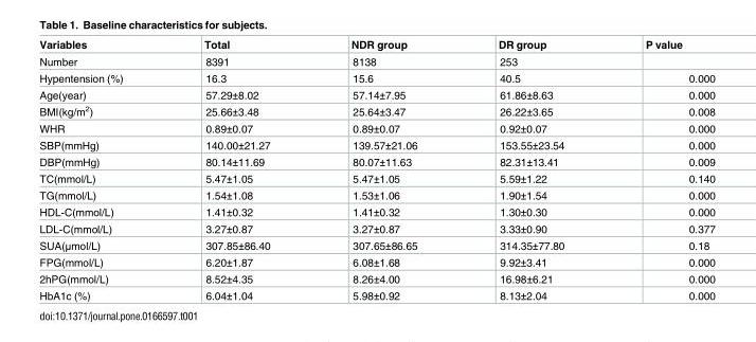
<table><thead><tr><td>Variables</td><td>Total</td><td>NDR group</td><td>DR group</td><td>P value</td></tr></thead><tbody><tr><td>Number</td><td>8391</td><td>8138</td><td>253</td><td></td></tr><tr><td>Hypentension (%)</td><td>16.3</td><td>15.6</td><td>40.5</td><td>0.000</td></tr><tr><td>Age(year)</td><td>57.29±8.02</td><td>57.14±7.95</td><td>61.86±8.63</td><td>0.000</td></tr><tr><td>BMI(kg/m<sup>2</sup>)</td><td>25.66±3.48</td><td>25.64±3.47</td><td>26.22±3.65</td><td>0.008</td></tr><tr><td>WHR</td><td>0.89±0.07</td><td>0.89±0.07</td><td>0.92±0.07</td><td>0.000</td></tr><tr><td>SBP(mmHg)</td><td>140.00±21.27</td><td>139.57±21.06</td><td>153.55±23.54</td><td>0.000</td></tr><tr><td>DBP(mmHg)</td><td>80.14±11.69</td><td>80.07±11.63</td><td>82.31±13.41</td><td>0.009</td></tr><tr><td>TC(mmol/L)</td><td>5.47±1.05</td><td>5.47±1.05</td><td>5.59±1.22</td><td>0.140</td></tr><tr><td>TG(mmol/L)</td><td>1.54±1.08</td><td>1.53±1.06</td><td>1.90±1.54</td><td>0.000</td></tr><tr><td>HDL-C(mmol/L)</td><td>1.41±0.32</td><td>1.41±0.32</td><td>1.30±0.30</td><td>0.000</td></tr><tr><td>LDL-C(mmol/L)</td><td>3.27±0.87</td><td>3.27±0.87</td><td>3.33±0.90</td><td>0.377</td></tr><tr><td>SUA(μmol/L)</td><td>307.85±86.40</td><td>307.65±86.65</td><td>314.35±77.80</td><td>0.18</td></tr><tr><td>FPG(mmol/L)</td><td>6.20±1.87</td><td>6.08±1.68</td><td>9.92±3.41</td><td>0.000</td></tr><tr><td>2hPG(mmol/L)</td><td>8.52±4.35</td><td>8.26±4.00</td><td>16.98±6.21</td><td>0.000</td></tr><tr><td>HbA1c (%)</td><td>6.04±1.04</td><td>5.98±0.92</td><td>8.13±2.04</td><td>0.000</td></tr></tbody></table>